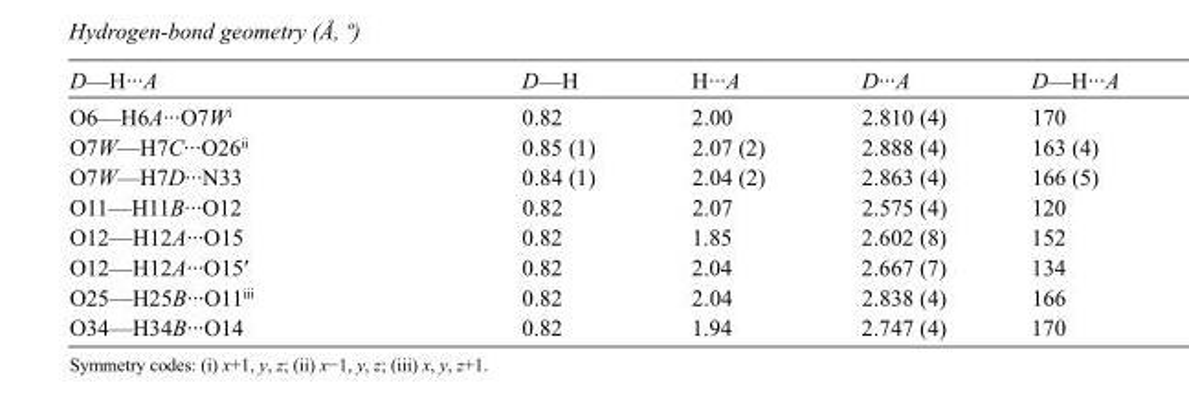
<table><tbody><tr><td>D—H···A</td><td>D—H</td><td>H···A</td><td>D···A</td><td>D—H···A</td></tr><tr><td>O6—H6A···O7W<sup>i</sup></td><td>0.82</td><td>2.00</td><td>2.810 (4)</td><td>170</td></tr><tr><td>O7W—H7C···O26<sup>ii</sup></td><td>0.85 (1)</td><td>2.07 (2)</td><td>2.888 (4)</td><td>163 (4)</td></tr><tr><td>O7W—H7D···N33</td><td>0.84 (1)</td><td>2.04 (2)</td><td>2.863 (4)</td><td>166 (5)</td></tr><tr><td>O11—H11B···O12</td><td>0.82</td><td>2.07</td><td>2.575 (4)</td><td>120</td></tr><tr><td>O12—H12A···O15</td><td>0.82</td><td>1.85</td><td>2.602 (8)</td><td>152</td></tr><tr><td>O12—H12A···O15′</td><td>0.82</td><td>2.04</td><td>2.667 (7)</td><td>134</td></tr><tr><td>O25—H25B···O11<sup>iii</sup></td><td>0.82</td><td>2.04</td><td>2.838 (4)</td><td>166</td></tr><tr><td>O34—H34B···O14</td><td>0.82</td><td>1.94</td><td>2.747 (4)</td><td>170</td></tr></tbody></table>